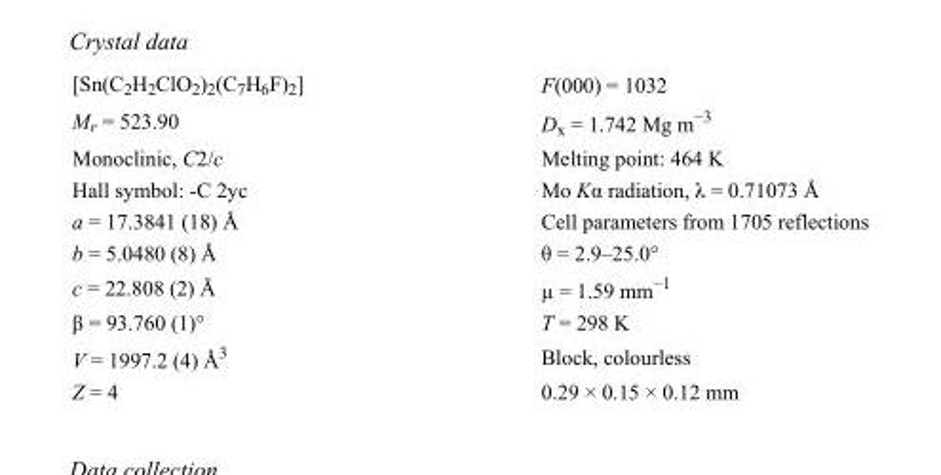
<table><tbody><tr><td>[Sn(C<sub>2</sub>H<sub>2</sub>ClO<sub>2</sub>)<sub>2</sub>(C<sub>7</sub>H<sub>6</sub>F)<sub>2</sub>]</td><td>F(000) = 1032</td></tr><tr><td>M<sub>r</sub> = 523.90</td><td>D<sub>x</sub> = 1.742 Mg m<sup>−3</sup></td></tr><tr><td>Monoclinic, C2/c</td><td>Melting point: 464 K</td></tr><tr><td>Hall symbol: -C 2yc</td><td>Mo Kα radiation, λ = 0.71073 Å</td></tr><tr><td>a = 17.3841 (18) Å</td><td>Cell parameters from 1705 reflections</td></tr><tr><td>b = 5.0480 (8) Å</td><td>θ = 2.9–25.0°</td></tr><tr><td>c = 22.808 (2) Å</td><td>µ = 1.59 mm<sup>−1</sup></td></tr><tr><td>β = 93.760 (1)°</td><td>T = 298 K</td></tr><tr><td>V = 1997.2 (4) Å<sup>3</sup></td><td>Block, colourless</td></tr><tr><td>Z = 4</td><td>0.29 × 0.15 × 0.12 mm</td></tr></tbody></table>